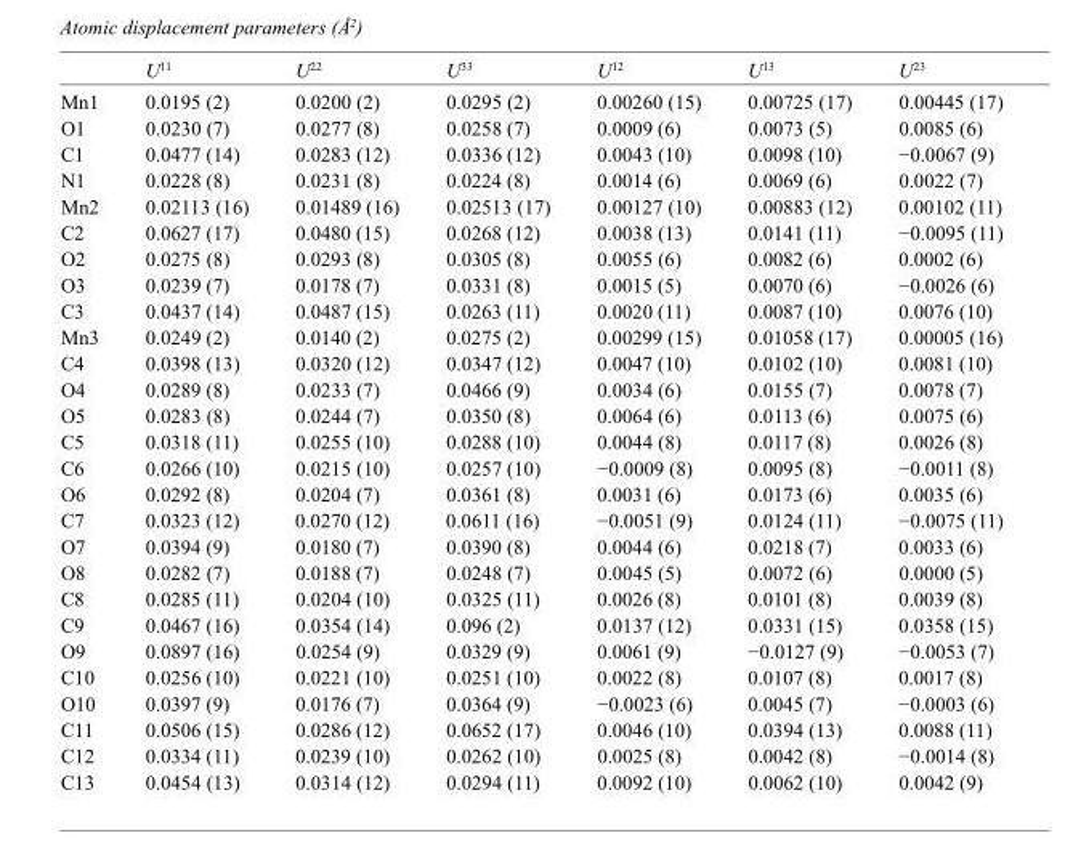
<table><thead><tr><td></td><td>U<sup>11</sup></td><td>U<sup>22</sup></td><td>U<sup>33</sup></td><td>U<sup>12</sup></td><td>U<sup>13</sup></td><td>U<sup>23</sup></td></tr></thead><tbody><tr><td>Mn1</td><td>0.0195 (2)</td><td>0.0200 (2)</td><td>0.0295 (2)</td><td>0.00260 (15)</td><td>0.00725 (17)</td><td>0.00445 (17)</td></tr><tr><td>O1</td><td>0.0230 (7)</td><td>0.0277 (8)</td><td>0.0258 (7)</td><td>0.0009 (6)</td><td>0.0073 (5)</td><td>0.0085 (6)</td></tr><tr><td>C1</td><td>0.0477 (14)</td><td>0.0283 (12)</td><td>0.0336 (12)</td><td>0.0043 (10)</td><td>0.0098 (10)</td><td>−0.0067 (9)</td></tr><tr><td>N1</td><td>0.0228 (8)</td><td>0.0231 (8)</td><td>0.0224 (8)</td><td>0.0014 (6)</td><td>0.0069 (6)</td><td>0.0022 (7)</td></tr><tr><td>Mn2</td><td>0.02113 (16)</td><td>0.01489 (16)</td><td>0.02513 (17)</td><td>0.00127 (10)</td><td>0.00883 (12)</td><td>0.00102 (11)</td></tr><tr><td>C2</td><td>0.0627 (17)</td><td>0.0480 (15)</td><td>0.0268 (12)</td><td>0.0038 (13)</td><td>0.0141 (11)</td><td>−0.0095 (11)</td></tr><tr><td>O2</td><td>0.0275 (8)</td><td>0.0293 (8)</td><td>0.0305 (8)</td><td>0.0055 (6)</td><td>0.0082 (6)</td><td>0.0002 (6)</td></tr><tr><td>O3</td><td>0.0239 (7)</td><td>0.0178 (7)</td><td>0.0331 (8)</td><td>0.0015 (5)</td><td>0.0070 (6)</td><td>−0.0026 (6)</td></tr><tr><td>C3</td><td>0.0437 (14)</td><td>0.0487 (15)</td><td>0.0263 (11)</td><td>0.0020 (11)</td><td>0.0087 (10)</td><td>0.0076 (10)</td></tr><tr><td>Mn3</td><td>0.0249 (2)</td><td>0.0140 (2)</td><td>0.0275 (2)</td><td>0.00299 (15)</td><td>0.01058 (17)</td><td>0.00005 (16)</td></tr><tr><td>C4</td><td>0.0398 (13)</td><td>0.0320 (12)</td><td>0.0347 (12)</td><td>0.0047 (10)</td><td>0.0102 (10)</td><td>0.0081 (10)</td></tr><tr><td>O4</td><td>0.0289 (8)</td><td>0.0233 (7)</td><td>0.0466 (9)</td><td>0.0034 (6)</td><td>0.0155 (7)</td><td>0.0078 (7)</td></tr><tr><td>O5</td><td>0.0283 (8)</td><td>0.0244 (7)</td><td>0.0350 (8)</td><td>0.0064 (6)</td><td>0.0113 (6)</td><td>0.0075 (6)</td></tr><tr><td>C5</td><td>0.0318 (11)</td><td>0.0255 (10)</td><td>0.0288 (10)</td><td>0.0044 (8)</td><td>0.0117 (8)</td><td>0.0026 (8)</td></tr><tr><td>C6</td><td>0.0266 (10)</td><td>0.0215 (10)</td><td>0.0257 (10)</td><td>−0.0009 (8)</td><td>0.0095 (8)</td><td>−0.0011 (8)</td></tr><tr><td>O6</td><td>0.0292 (8)</td><td>0.0204 (7)</td><td>0.0361 (8)</td><td>0.0031 (6)</td><td>0.0173 (6)</td><td>0.0035 (6)</td></tr><tr><td>C7</td><td>0.0323 (12)</td><td>0.0270 (12)</td><td>0.0611 (16)</td><td>−0.0051 (9)</td><td>0.0124 (11)</td><td>−0.0075 (11)</td></tr><tr><td>O7</td><td>0.0394 (9)</td><td>0.0180 (7)</td><td>0.0390 (8)</td><td>0.0044 (6)</td><td>0.0218 (7)</td><td>0.0033 (6)</td></tr><tr><td>O8</td><td>0.0282 (7)</td><td>0.0188 (7)</td><td>0.0248 (7)</td><td>0.0045 (5)</td><td>0.0072 (6)</td><td>0.0000 (5)</td></tr><tr><td>C8</td><td>0.0285 (11)</td><td>0.0204 (10)</td><td>0.0325 (11)</td><td>0.0026 (8)</td><td>0.0101 (8)</td><td>0.0039 (8)</td></tr><tr><td>C9</td><td>0.0467 (16)</td><td>0.0354 (14)</td><td>0.096 (2)</td><td>0.0137 (12)</td><td>0.0331 (15)</td><td>0.0358 (15)</td></tr><tr><td>O9</td><td>0.0897 (16)</td><td>0.0254 (9)</td><td>0.0329 (9)</td><td>0.0061 (9)</td><td>−0.0127 (9)</td><td>−0.0053 (7)</td></tr><tr><td>C10</td><td>0.0256 (10)</td><td>0.0221 (10)</td><td>0.0251 (10)</td><td>0.0022 (8)</td><td>0.0107 (8)</td><td>0.0017 (8)</td></tr><tr><td>O10</td><td>0.0397 (9)</td><td>0.0176 (7)</td><td>0.0364 (9)</td><td>−0.0023 (6)</td><td>0.0045 (7)</td><td>−0.0003 (6)</td></tr><tr><td>C11</td><td>0.0506 (15)</td><td>0.0286 (12)</td><td>0.0652 (17)</td><td>0.0046 (10)</td><td>0.0394 (13)</td><td>0.0088 (11)</td></tr><tr><td>C12</td><td>0.0334 (11)</td><td>0.0239 (10)</td><td>0.0262 (10)</td><td>0.0025 (8)</td><td>0.0042 (8)</td><td>−0.0014 (8)</td></tr><tr><td>C13</td><td>0.0454 (13)</td><td>0.0314 (12)</td><td>0.0294 (11)</td><td>0.0092 (10)</td><td>0.0062 (10)</td><td>0.0042 (9)</td></tr></tbody></table>